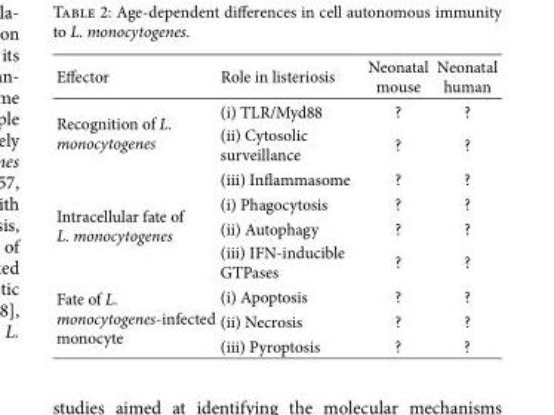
<table><thead><tr><td>Effector</td><td>Role in listeriosis</td><td>Neonatal mouse</td><td>Neonatal human</td></tr></thead><tbody><tr><td rowspan="3">Recognition of L. monocytogenes</td><td>(i) TLR/Myd88</td><td>?</td><td>?</td></tr><tr><td>(ii) Cytosolic surveillance</td><td>?</td><td>?</td></tr><tr><td>(iii) Inflammasome</td><td>?</td><td>?</td></tr><tr><td rowspan="3">Intracellular fate of L. monocytogenes</td><td>(i) Phagocytosis</td><td>?</td><td>?</td></tr><tr><td>(ii) Autophagy</td><td>?</td><td>?</td></tr><tr><td>(iii) IFN-inducible GTPases</td><td>?</td><td>?</td></tr><tr><td rowspan="3">Fate of L. monocytogenes-infected monocyte</td><td>(i) Apoptosis</td><td>?</td><td>?</td></tr><tr><td>(ii) Necrosis</td><td>?</td><td>?</td></tr><tr><td>(iii) Pyroptosis</td><td>?</td><td>?</td></tr></tbody></table>